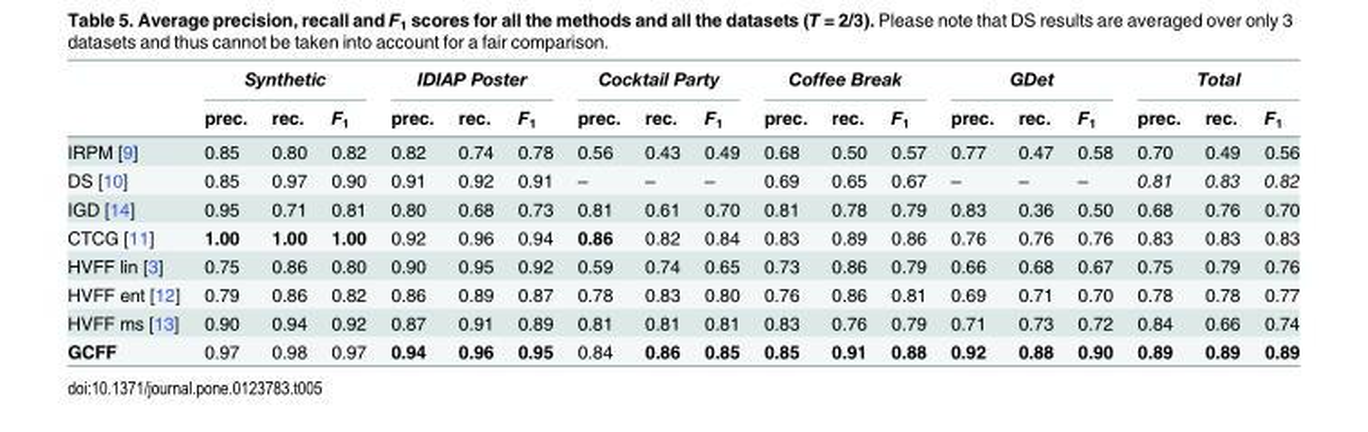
<table><thead><tr><td rowspan="2"></td><td colspan="3">Synthetic</td><td colspan="3">IDIAP Poster</td><td colspan="3">Cocktail Party</td><td colspan="3">Coffee Break</td><td colspan="3">GDet</td><td colspan="3">Total</td></tr><tr><td>prec.</td><td>rec.</td><td>F<sub>1</sub></td><td>prec.</td><td>rec.</td><td>F<sub>1</sub></td><td>prec.</td><td>rec.</td><td>F<sub>1</sub></td><td>prec.</td><td>rec.</td><td>F<sub>1</sub></td><td>prec.</td><td>rec.</td><td>F<sub>1</sub></td><td>prec.</td><td>rec.</td><td>F<sub>1</sub></td></tr></thead><tbody><tr><td>IRPM [9]</td><td>0.85</td><td>0.80</td><td>0.82</td><td>0.82</td><td>0.74</td><td>0.78</td><td>0.56</td><td>0.43</td><td>0.49</td><td>0.68</td><td>0.50</td><td>0.57</td><td>0.77</td><td>0.47</td><td>0.58</td><td>0.70</td><td>0.49</td><td>0.56</td></tr><tr><td>DS [10]</td><td>0.85</td><td>0.97</td><td>0.90</td><td>0.91</td><td>0.92</td><td>0.91</td><td>–</td><td>–</td><td>–</td><td>0.69</td><td>0.65</td><td>0.67</td><td>–</td><td>–</td><td>–</td><td>0.81</td><td>0.83</td><td>0.82</td></tr><tr><td>IGD [14]</td><td>0.95</td><td>0.71</td><td>0.81</td><td>0.80</td><td>0.68</td><td>0.73</td><td>0.81</td><td>0.61</td><td>0.70</td><td>0.81</td><td>0.78</td><td>0.79</td><td>0.83</td><td>0.36</td><td>0.50</td><td>0.68</td><td>0.76</td><td>0.70</td></tr><tr><td>CTCG [11]</td><td>1.00</td><td>1.00</td><td>1.00</td><td>0.92</td><td>0.96</td><td>0.94</td><td>0.86</td><td>0.82</td><td>0.84</td><td>0.83</td><td>0.89</td><td>0.86</td><td>0.76</td><td>0.76</td><td>0.76</td><td>0.83</td><td>0.83</td><td>0.83</td></tr><tr><td>HVFF lin [3]</td><td>0.75</td><td>0.86</td><td>0.80</td><td>0.90</td><td>0.95</td><td>0.92</td><td>0.59</td><td>0.74</td><td>0.65</td><td>0.73</td><td>0.86</td><td>0.79</td><td>0.66</td><td>0.68</td><td>0.67</td><td>0.75</td><td>0.79</td><td>0.76</td></tr><tr><td>HVFF ent [12]</td><td>0.79</td><td>0.86</td><td>0.82</td><td>0.86</td><td>0.89</td><td>0.87</td><td>0.78</td><td>0.83</td><td>0.80</td><td>0.76</td><td>0.86</td><td>0.81</td><td>0.69</td><td>0.71</td><td>0.70</td><td>0.78</td><td>0.78</td><td>0.77</td></tr><tr><td>HVFF ms [13]</td><td>0.90</td><td>0.94</td><td>0.92</td><td>0.87</td><td>0.91</td><td>0.89</td><td>0.81</td><td>0.81</td><td>0.81</td><td>0.83</td><td>0.76</td><td>0.79</td><td>0.71</td><td>0.73</td><td>0.72</td><td>0.84</td><td>0.66</td><td>0.74</td></tr><tr><td>GCFF</td><td>0.97</td><td>0.98</td><td>0.97</td><td>0.94</td><td>0.96</td><td>0.95</td><td>0.84</td><td>0.86</td><td>0.85</td><td>0.85</td><td>0.91</td><td>0.88</td><td>0.92</td><td>0.88</td><td>0.90</td><td>0.89</td><td>0.89</td><td>0.89</td></tr></tbody></table>